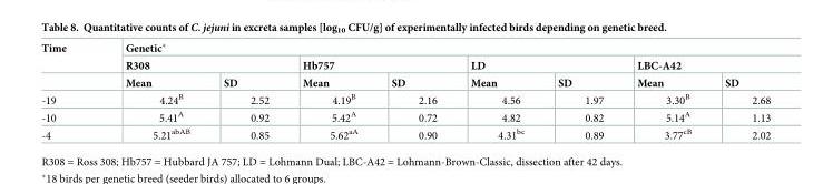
<table><thead><tr><td rowspan="3">Time</td><td colspan="8">Genetic*</td></tr><tr><td colspan="2">R308</td><td colspan="2">Hb757</td><td colspan="2">LD</td><td colspan="2">LBC-A42</td></tr><tr><td>Mean</td><td>SD</td><td>Mean</td><td>SD</td><td>Mean</td><td>SD</td><td>Mean</td><td>SD</td></tr></thead><tbody><tr><td>-19</td><td>4.24<sup>B</sup></td><td>2.52</td><td>4.19<sup>B</sup></td><td>2.16</td><td>4.56</td><td>1.97</td><td>3.30<sup>B</sup></td><td>2.68</td></tr><tr><td>-10</td><td>5.41<sup>A</sup></td><td>0.92</td><td>5.42<sup>A</sup></td><td>0.72</td><td>4.82</td><td>0.82</td><td>5.14<sup>A</sup></td><td>1.13</td></tr><tr><td>-4</td><td>5.21<sup>abAB</sup></td><td>0.85</td><td>5.62<sup>aA</sup></td><td>0.90</td><td>4.31<sup>bc</sup></td><td>0.89</td><td>3.77<sup>cB</sup></td><td>2.02</td></tr></tbody></table>